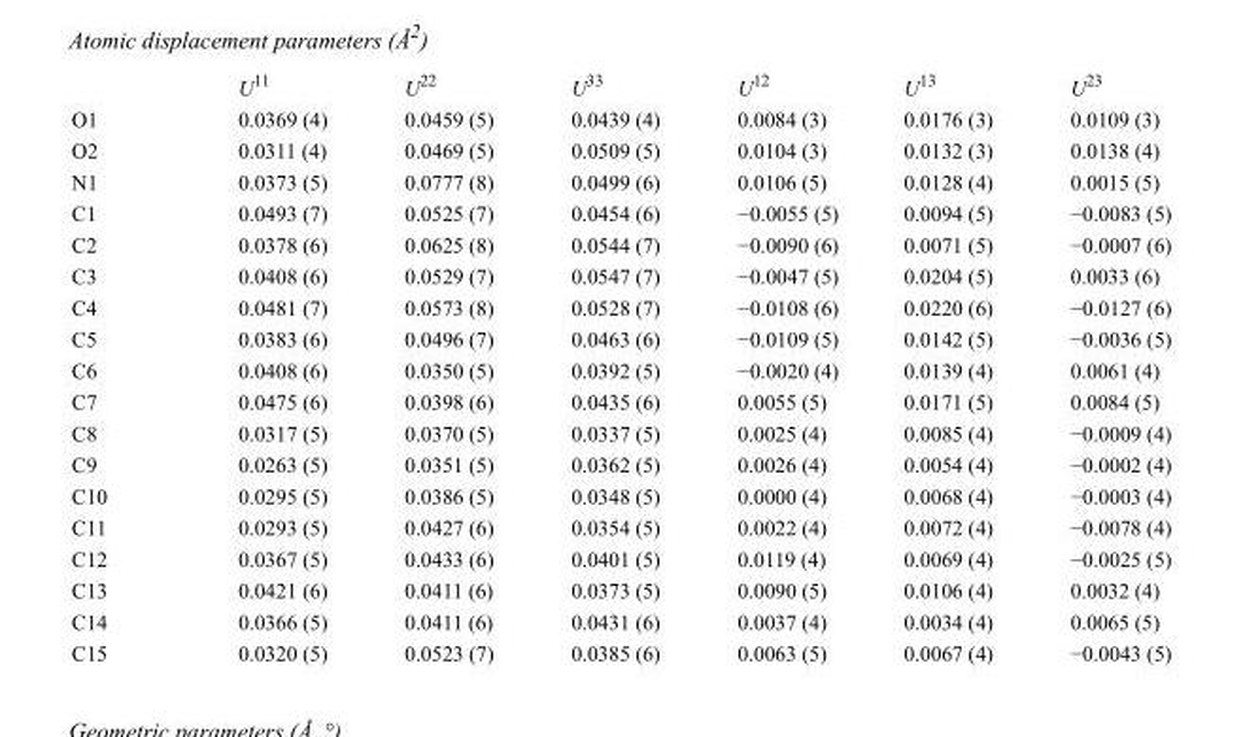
<table><thead><tr><td></td><td>U<sup>11</sup></td><td>U<sup>22</sup></td><td>U<sup>33</sup></td><td>U<sup>12</sup></td><td>U<sup>13</sup></td><td>U<sup>23</sup></td></tr></thead><tbody><tr><td>O1</td><td>0.0369 (4)</td><td>0.0459 (5)</td><td>0.0439 (4)</td><td>0.0084 (3)</td><td>0.0176 (3)</td><td>0.0109 (3)</td></tr><tr><td>O2</td><td>0.0311 (4)</td><td>0.0469 (5)</td><td>0.0509 (5)</td><td>0.0104 (3)</td><td>0.0132 (3)</td><td>0.0138 (4)</td></tr><tr><td>N1</td><td>0.0373 (5)</td><td>0.0777 (8)</td><td>0.0499 (6)</td><td>0.0106 (5)</td><td>0.0128 (4)</td><td>0.0015 (5)</td></tr><tr><td>C1</td><td>0.0493 (7)</td><td>0.0525 (7)</td><td>0.0454 (6)</td><td>−0.0055 (5)</td><td>0.0094 (5)</td><td>−0.0083 (5)</td></tr><tr><td>C2</td><td>0.0378 (6)</td><td>0.0625 (8)</td><td>0.0544 (7)</td><td>−0.0090 (6)</td><td>0.0071 (5)</td><td>−0.0007 (6)</td></tr><tr><td>C3</td><td>0.0408 (6)</td><td>0.0529 (7)</td><td>0.0547 (7)</td><td>−0.0047 (5)</td><td>0.0204 (5)</td><td>0.0033 (6)</td></tr><tr><td>C4</td><td>0.0481 (7)</td><td>0.0573 (8)</td><td>0.0528 (7)</td><td>−0.0108 (6)</td><td>0.0220 (6)</td><td>−0.0127 (6)</td></tr><tr><td>C5</td><td>0.0383 (6)</td><td>0.0496 (7)</td><td>0.0463 (6)</td><td>−0.0109 (5)</td><td>0.0142 (5)</td><td>−0.0036 (5)</td></tr><tr><td>C6</td><td>0.0408 (6)</td><td>0.0350 (5)</td><td>0.0392 (5)</td><td>−0.0020 (4)</td><td>0.0139 (4)</td><td>0.0061 (4)</td></tr><tr><td>C7</td><td>0.0475 (6)</td><td>0.0398 (6)</td><td>0.0435 (6)</td><td>0.0055 (5)</td><td>0.0171 (5)</td><td>0.0084 (5)</td></tr><tr><td>C8</td><td>0.0317 (5)</td><td>0.0370 (5)</td><td>0.0337 (5)</td><td>0.0025 (4)</td><td>0.0085 (4)</td><td>−0.0009 (4)</td></tr><tr><td>C9</td><td>0.0263 (5)</td><td>0.0351 (5)</td><td>0.0362 (5)</td><td>0.0026 (4)</td><td>0.0054 (4)</td><td>−0.0002 (4)</td></tr><tr><td>C10</td><td>0.0295 (5)</td><td>0.0386 (5)</td><td>0.0348 (5)</td><td>0.0000 (4)</td><td>0.0068 (4)</td><td>−0.0003 (4)</td></tr><tr><td>C11</td><td>0.0293 (5)</td><td>0.0427 (6)</td><td>0.0354 (5)</td><td>0.0022 (4)</td><td>0.0072 (4)</td><td>−0.0078 (4)</td></tr><tr><td>C12</td><td>0.0367 (5)</td><td>0.0433 (6)</td><td>0.0401 (5)</td><td>0.0119 (4)</td><td>0.0069 (4)</td><td>−0.0025 (5)</td></tr><tr><td>C13</td><td>0.0421 (6)</td><td>0.0411 (6)</td><td>0.0373 (5)</td><td>0.0090 (5)</td><td>0.0106 (4)</td><td>0.0032 (4)</td></tr><tr><td>C14</td><td>0.0366 (5)</td><td>0.0411 (6)</td><td>0.0431 (6)</td><td>0.0037 (4)</td><td>0.0034 (4)</td><td>0.0065 (5)</td></tr><tr><td>C15</td><td>0.0320 (5)</td><td>0.0523 (7)</td><td>0.0385 (6)</td><td>0.0063 (5)</td><td>0.0067 (4)</td><td>−0.0043 (5)</td></tr></tbody></table>